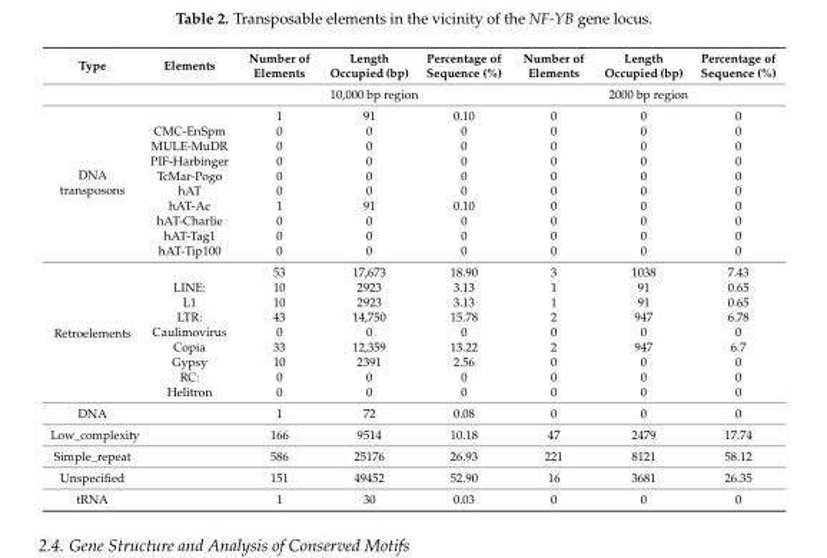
<table><thead><tr><td>Type</td><td>Elements</td><td>Number of Elements</td><td>Length Occupied (bp)</td><td>Percentage of Sequence (%)</td><td>Number of Elements</td><td>Length Occupied (bp)</td><td>Percentage of Sequence (%)</td></tr></thead><tbody><tr><td></td><td></td><td colspan="3">10,000 bp region</td><td colspan="3">2000 bp region</td></tr><tr><td rowspan="10">DNA transposons</td><td></td><td>1</td><td>91</td><td>0.10</td><td>0</td><td>0</td><td>0</td></tr><tr><td>CMC-EnSpm</td><td>0</td><td>0</td><td>0</td><td>0</td><td>0</td><td>0</td></tr><tr><td>MULE-MuDR</td><td>0</td><td>0</td><td>0</td><td>0</td><td>0</td><td>0</td></tr><tr><td>PIF-Harbinger</td><td>0</td><td>0</td><td>0</td><td>0</td><td>0</td><td>0</td></tr><tr><td>TcMar-Pogo</td><td>0</td><td>0</td><td>0</td><td>0</td><td>0</td><td>0</td></tr><tr><td>hAT</td><td>0</td><td>0</td><td>0</td><td>0</td><td>0</td><td>0</td></tr><tr><td>hAT-Ac</td><td>1</td><td>91</td><td>0.10</td><td>0</td><td>0</td><td>0</td></tr><tr><td>hAT-Charlie</td><td>0</td><td>0</td><td>0</td><td>0</td><td>0</td><td>0</td></tr><tr><td>hAT-Tag1</td><td>0</td><td>0</td><td>0</td><td>0</td><td>0</td><td>0</td></tr><tr><td>hAT-Tip100</td><td>0</td><td>0</td><td>0</td><td>0</td><td>0</td><td>0</td></tr><tr><td rowspan="9">Retroelements</td><td></td><td>53</td><td>17,673</td><td>18.90</td><td>3</td><td>1038</td><td>7.43</td></tr><tr><td>LINE:</td><td>10</td><td>2923</td><td>3.13</td><td>1</td><td>91</td><td>0.65</td></tr><tr><td>L1</td><td>10</td><td>2923</td><td>3.13</td><td>1</td><td>91</td><td>0.65</td></tr><tr><td>LTR:</td><td>43</td><td>14,750</td><td>15.78</td><td>2</td><td>947</td><td>6.78</td></tr><tr><td>Caulimovirus</td><td>0</td><td>0</td><td>0</td><td>0</td><td>0</td><td>0</td></tr><tr><td>Copia</td><td>33</td><td>12,359</td><td>13.22</td><td>2</td><td>947</td><td>6.7</td></tr><tr><td>Gypsy</td><td>10</td><td>2391</td><td>2.56</td><td>0</td><td>0</td><td>0</td></tr><tr><td>RC:</td><td>0</td><td>0</td><td>0</td><td>0</td><td>0</td><td>0</td></tr><tr><td>Helitron</td><td>0</td><td>0</td><td>0</td><td>0</td><td>0</td><td>0</td></tr><tr><td>DNA</td><td></td><td>1</td><td>72</td><td>0.08</td><td>0</td><td>0</td><td>0</td></tr><tr><td>Low_complexity</td><td></td><td>166</td><td>9514</td><td>10.18</td><td>47</td><td>2479</td><td>17.74</td></tr><tr><td>Simple_repeat</td><td></td><td>586</td><td>25176</td><td>26.93</td><td>221</td><td>8121</td><td>58.12</td></tr><tr><td>Unspecified</td><td></td><td>151</td><td>49452</td><td>52.90</td><td>16</td><td>3681</td><td>26.35</td></tr><tr><td>tRNA</td><td></td><td>1</td><td>30</td><td>0.03</td><td>0</td><td>0</td><td>0</td></tr></tbody></table>